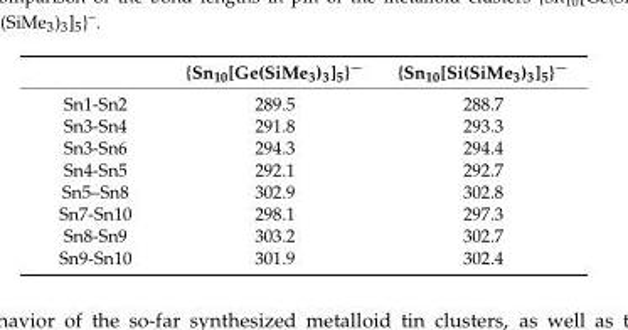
<table><thead><tr><td></td><td>{Sn<sub>10</sub>[Ge(SiMe<sub>3</sub>)<sub>3</sub>]<sub>5</sub>}<sup>−</sup></td><td>{Sn<sub>10</sub>[Si(SiMe<sub>3</sub>)<sub>3</sub>]<sub>5</sub>}<sup>−</sup></td></tr></thead><tbody><tr><td>Sn1-Sn2</td><td>289.5</td><td>288.7</td></tr><tr><td>Sn3-Sn4</td><td>291.8</td><td>293.3</td></tr><tr><td>Sn3-Sn6</td><td>294.3</td><td>294.4</td></tr><tr><td>Sn4-Sn5</td><td>292.1</td><td>292.7</td></tr><tr><td>Sn5–Sn8</td><td>302.9</td><td>302.8</td></tr><tr><td>Sn7-Sn10</td><td>298.1</td><td>297.3</td></tr><tr><td>Sn8-Sn9</td><td>303.2</td><td>302.7</td></tr><tr><td>Sn9-Sn10</td><td>301.9</td><td>302.4</td></tr></tbody></table>